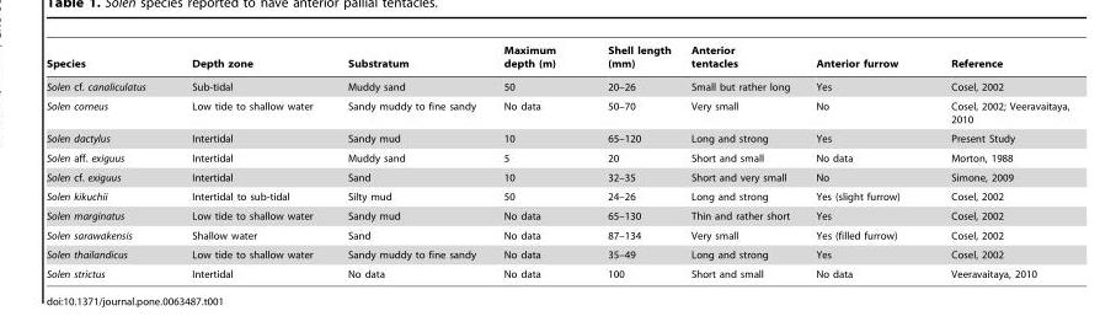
<table><thead><tr><td>Species</td><td>Depth zone</td><td>Substratum</td><td>Maximum depth (m)</td><td>Shell length (mm)</td><td>Anterior tentacles</td><td>Anterior furrow</td><td>Reference</td></tr></thead><tbody><tr><td>Solen cf. canaliculatus</td><td>Sub-tidal</td><td>Muddy sand</td><td>50</td><td>20–26</td><td>Small but rather long</td><td>Yes</td><td>Cosel, 2002</td></tr><tr><td>Solen corneus</td><td>Low tide to shallow water</td><td>Sandy muddy to fine sandy</td><td>No data</td><td>50–70</td><td>Very small</td><td>No</td><td>Cosel, 2002; Veeravaitaya, 2010</td></tr><tr><td>Solen dactylus</td><td>Intertidal</td><td>Sandy mud</td><td>10</td><td>65–120</td><td>Long and strong</td><td>Yes</td><td>Present Study</td></tr><tr><td>Solen aff. exiguus</td><td>Intertidal</td><td>Muddy sand</td><td>5</td><td>20</td><td>Short and small</td><td>No data</td><td>Morton, 1988</td></tr><tr><td>Solen cf. exiguus</td><td>Intertidal</td><td>Sand</td><td>10</td><td>32–35</td><td>Short and very small</td><td>No</td><td>Simone, 2009</td></tr><tr><td>Solen kikuchii</td><td>Intertidal to sub-tidal</td><td>Silty mud</td><td>50</td><td>24–26</td><td>Long and strong</td><td>Yes (slight furrow)</td><td>Cosel, 2002</td></tr><tr><td>Solen marginatus</td><td>Low tide to shallow water</td><td>Sandy mud</td><td>No data</td><td>65–130</td><td>Thin and rather short</td><td>Yes</td><td>Cosel, 2002</td></tr><tr><td>Solen sarawakensis</td><td>Shallow water</td><td>Sand</td><td>No data</td><td>87–134</td><td>Very small</td><td>Yes (filled furrow)</td><td>Cosel, 2002</td></tr><tr><td>Solen thailandicus</td><td>Low tide to shallow water</td><td>Sandy muddy to fine sandy</td><td>No data</td><td>35–49</td><td>Long and strong</td><td>Yes</td><td>Cosel, 2002</td></tr><tr><td>Solen strictus</td><td>Intertidal</td><td>No data</td><td>No data</td><td>100</td><td>Short and small</td><td>No data</td><td>Veeravaitaya, 2010</td></tr></tbody></table>